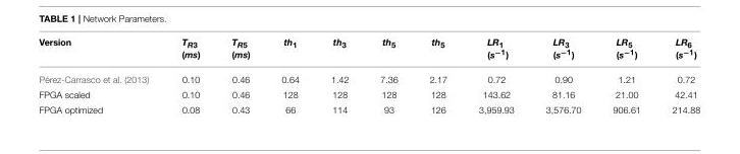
<table><thead><tr><td>Version</td><td>T<sub>R3</sub> (ms)</td><td>T<sub>R5</sub> (ms)</td><td>th<sub>1</sub></td><td>th<sub>3</sub></td><td>th<sub>5</sub></td><td>th<sub>5</sub></td><td>LR<sub>1</sub> (s<sup>−1</sup>)</td><td>LR<sub>3</sub> (s<sup>−1</sup>)</td><td>LR<sub>5</sub> (s<sup>−1</sup>)</td><td>LR<sub>6</sub> (s<sup>−1</sup>)</td></tr></thead><tbody><tr><td>Pérez-Carrasco et al. (2013)</td><td>0.10</td><td>0.46</td><td>0.64</td><td>1.42</td><td>7.36</td><td>2.17</td><td>0.72</td><td>0.90</td><td>1.21</td><td>0.72</td></tr><tr><td>FPGA scaled</td><td>0.10</td><td>0.46</td><td>128</td><td>128</td><td>128</td><td>128</td><td>143.62</td><td>81.16</td><td>21.00</td><td>42.41</td></tr><tr><td>FPGA optimized</td><td>0.08</td><td>0.43</td><td>66</td><td>114</td><td>93</td><td>126</td><td>3,959.93</td><td>3,576.70</td><td>906.61</td><td>214.88</td></tr></tbody></table>